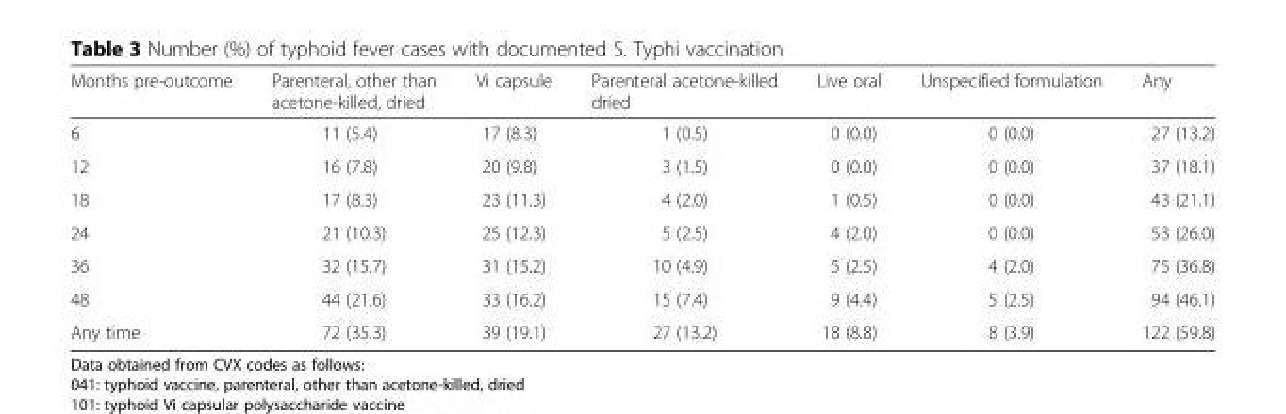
<table><thead><tr><td>Months pre-outcome</td><td>Parenteral, other than acetone-killed, dried</td><td>Vi capsule</td><td>Parenteral acetone-killed dried</td><td>Live oral</td><td>Unspecified formulation</td><td>Any</td></tr></thead><tbody><tr><td>6</td><td>11 (5.4)</td><td>17 (8.3)</td><td>1 (0.5)</td><td>0 (0.0)</td><td>0 (0.0)</td><td>27 (13.2)</td></tr><tr><td>12</td><td>16 (7.8)</td><td>20 (9.8)</td><td>3 (1.5)</td><td>0 (0.0)</td><td>0 (0.0)</td><td>37 (18.1)</td></tr><tr><td>18</td><td>17 (8.3)</td><td>23 (11.3)</td><td>4 (2.0)</td><td>1 (0.5)</td><td>0 (0.0)</td><td>43 (21.1)</td></tr><tr><td>24</td><td>21 (10.3)</td><td>25 (12.3)</td><td>5 (2.5)</td><td>4 (2.0)</td><td>0 (0.0)</td><td>53 (26.0)</td></tr><tr><td>36</td><td>32 (15.7)</td><td>31 (15.2)</td><td>10 (4.9)</td><td>5 (2.5)</td><td>4 (2.0)</td><td>75 (36.8)</td></tr><tr><td>48</td><td>44 (21.6)</td><td>33 (16.2)</td><td>15 (7.4)</td><td>9 (4.4)</td><td>5 (2.5)</td><td>94 (46.1)</td></tr><tr><td>Any time</td><td>72 (35.3)</td><td>39 (19.1)</td><td>27 (13.2)</td><td>18 (8.8)</td><td>8 (3.9)</td><td>122 (59.8)</td></tr></tbody></table>